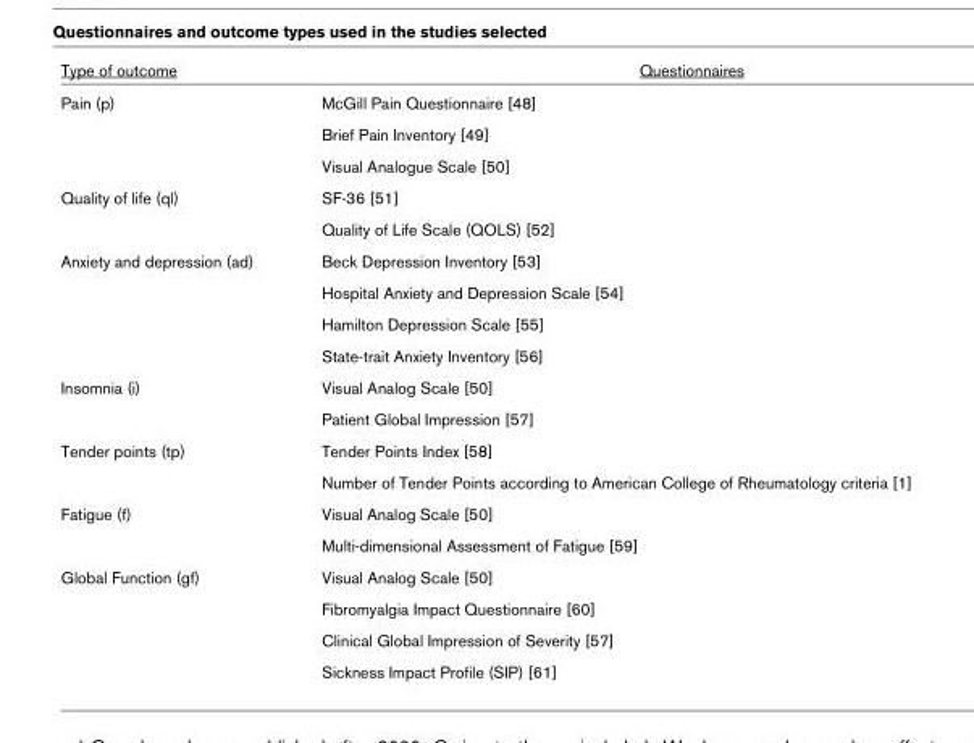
<table><thead><tr><td>Type of outcome</td><td>Questionnaires</td></tr></thead><tbody><tr><td rowspan="3">Pain (p)</td><td>McGill Pain Questionnaire [48]</td></tr><tr><td>Brief Pain Inventory [49]</td></tr><tr><td>Visual Analogue Scale [50]</td></tr><tr><td rowspan="2">Quality of life (ql)</td><td>SF-36 [51]</td></tr><tr><td>Quality of Life Scale (QOLS) [52]</td></tr><tr><td rowspan="4">Anxiety and depression (ad)</td><td>Beck Depression Inventory [53]</td></tr><tr><td>Hospital Anxiety and Depression Scale [54]</td></tr><tr><td>Hamilton Depression Scale [55]</td></tr><tr><td>State-trait Anxiety Inventory [56]</td></tr><tr><td rowspan="2">Insomnia (i)</td><td>Visual Analog Scale [50]</td></tr><tr><td>Patient Global Impression [57]</td></tr><tr><td rowspan="2">Tender points (tp)</td><td>Tender Points Index [58]</td></tr><tr><td>Number of Tender Points according to American College of Rheumatology criteria [1]</td></tr><tr><td rowspan="2">Fatigue (f)</td><td>Visual Analog Scale [50]</td></tr><tr><td>Multi-dimensional Assessment of Fatigue [59]</td></tr><tr><td rowspan="4">Global Function (gf)</td><td>Visual Analog Scale [50]</td></tr><tr><td>Fibromyalgia Impact Questionnaire [60]</td></tr><tr><td>Clinical Global Impression of Severity [57]</td></tr><tr><td>Sickness Impact Profile (SIP) [61]</td></tr></tbody></table>